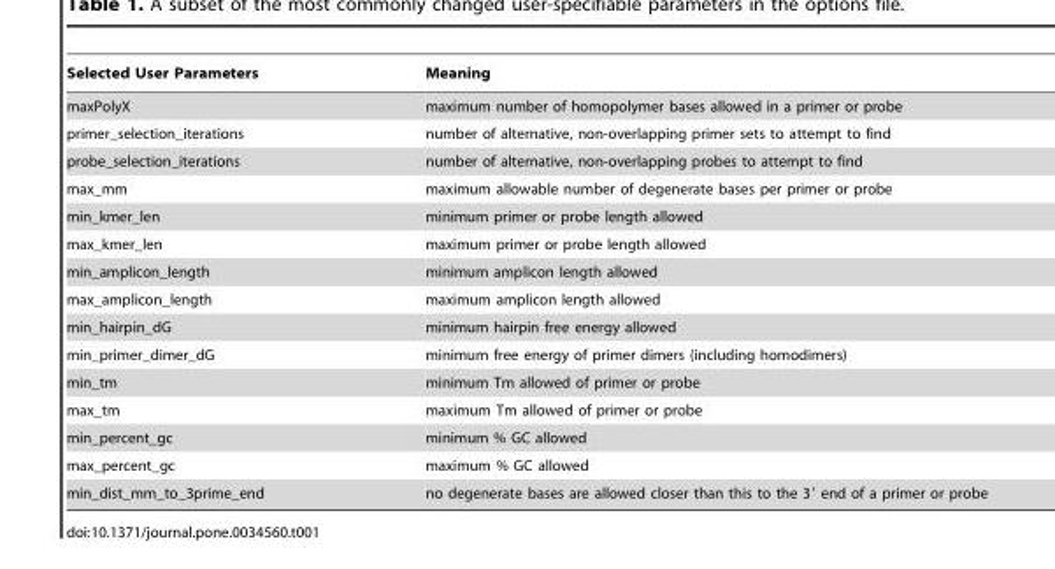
<table><thead><tr><td>Selected User Parameters</td><td>Meaning</td></tr></thead><tbody><tr><td>maxPolyX</td><td>maximum number of homopolymer bases allowed in a primer or probe</td></tr><tr><td>primer_selection_iterations</td><td>number of alternative, non-overlapping primer sets to attempt to find</td></tr><tr><td>probe_selection_iterations</td><td>number of alternative, non-overlapping probes to attempt to find</td></tr><tr><td>max_mm</td><td>maximum allowable number of degenerate bases per primer or probe</td></tr><tr><td>min_kmer_len</td><td>minimum primer or probe length allowed</td></tr><tr><td>max_kmer_len</td><td>maximum primer or probe length allowed</td></tr><tr><td>min_amplicon_length</td><td>minimum amplicon length allowed</td></tr><tr><td>max_amplicon_length</td><td>maximum amplicon length allowed</td></tr><tr><td>min_hairpin_dG</td><td>minimum hairpin free energy allowed</td></tr><tr><td>min_primer_dimer_dG</td><td>minimum free energy of primer dimers (including homodimers)</td></tr><tr><td>min_tm</td><td>minimum Tm allowed of primer or probe</td></tr><tr><td>max_tm</td><td>maximum Tm allowed of primer or probe</td></tr><tr><td>min_percent_gc</td><td>minimum % GC allowed</td></tr><tr><td>max_percent_gc</td><td>maximum % GC allowed</td></tr><tr><td>min_dist_mm_to_3prime_end</td><td>no degenerate bases are allowed closer than this to the 3′ end of a primer or probe</td></tr></tbody></table>